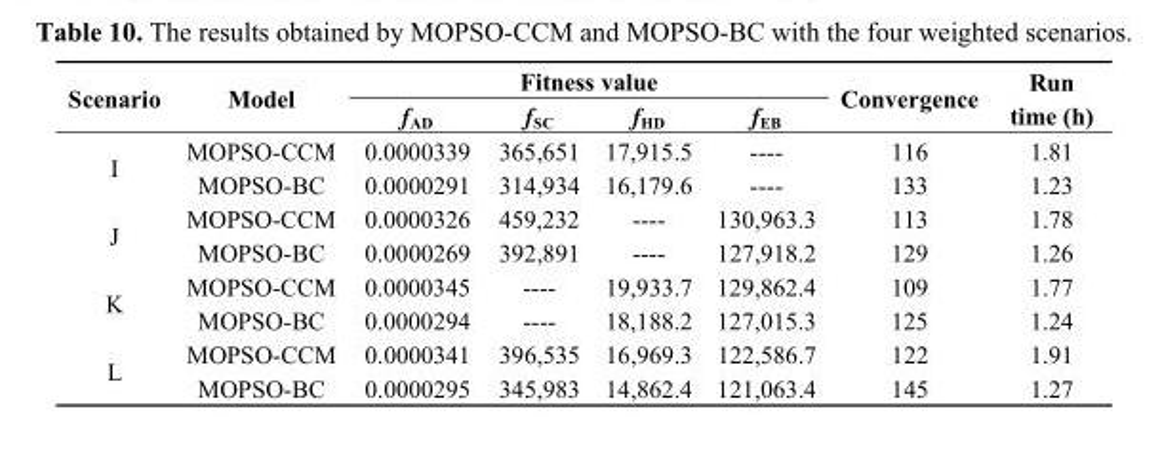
<table><thead><tr><td rowspan="2">Scenario</td><td rowspan="2">Model</td><td colspan="4">Fitness value</td><td rowspan="2">Convergence</td><td rowspan="2">Run time (h)</td></tr><tr><td>f<sub>AD</sub></td><td>f<sub>SC</sub></td><td>f<sub>HD</sub></td><td>f<sub>EB</sub></td></tr></thead><tbody><tr><td rowspan="2">I</td><td>MOPSO-CCM</td><td>0.0000339</td><td>365,651</td><td>17,915.5</td><td>----</td><td>116</td><td>1.81</td></tr><tr><td>MOPSO-BC</td><td>0.0000291</td><td>314,934</td><td>16,179.6</td><td>----</td><td>133</td><td>1.23</td></tr><tr><td rowspan="2">J</td><td>MOPSO-CCM</td><td>0.0000326</td><td>459,232</td><td>----</td><td>130,963.3</td><td>113</td><td>1.78</td></tr><tr><td>MOPSO-BC</td><td>0.0000269</td><td>392,891</td><td>----</td><td>127,918.2</td><td>129</td><td>1.26</td></tr><tr><td rowspan="2">K</td><td>MOPSO-CCM</td><td>0.0000345</td><td>----</td><td>19,933.7</td><td>129,862.4</td><td>109</td><td>1.77</td></tr><tr><td>MOPSO-BC</td><td>0.0000294</td><td>----</td><td>18,188.2</td><td>127,015.3</td><td>125</td><td>1.24</td></tr><tr><td rowspan="2">L</td><td>MOPSO-CCM</td><td>0.0000341</td><td>396,535</td><td>16,969.3</td><td>122,586.7</td><td>122</td><td>1.91</td></tr><tr><td>MOPSO-BC</td><td>0.0000295</td><td>345,983</td><td>14,862.4</td><td>121,063.4</td><td>145</td><td>1.27</td></tr></tbody></table>